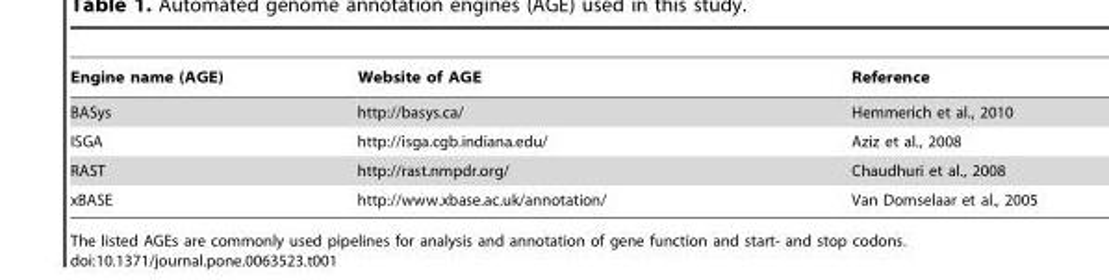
<table><thead><tr><td>Engine name (AGE)</td><td>Website of AGE</td><td>Reference</td></tr></thead><tbody><tr><td>BASys</td><td>http://basys.ca/</td><td>Hemmerich et al., 2010</td></tr><tr><td>ISGA</td><td>http://isga.cgb.indiana.edu/</td><td>Aziz et al., 2008</td></tr><tr><td>RAST</td><td>http://rast.nmpdr.org/</td><td>Chaudhuri et al., 2008</td></tr><tr><td>xBASE</td><td>http://www.xbase.ac.uk/annotation/</td><td>Van Domselaar et al., 2005</td></tr></tbody></table>